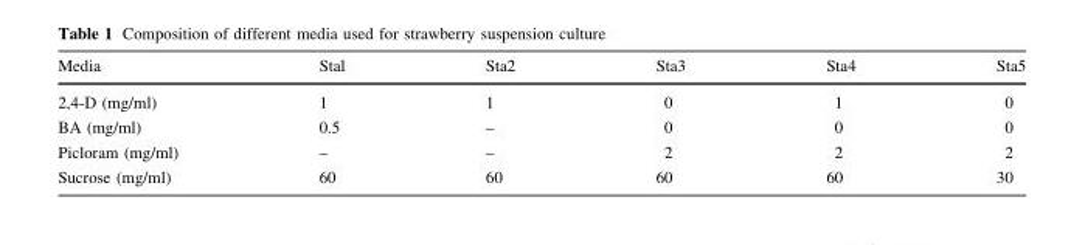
<table><thead><tr><td>Media</td><td>Stal</td><td>Sta2</td><td>Sta3</td><td>Sta4</td><td>Sta5</td></tr></thead><tbody><tr><td>2,4-D (mg/ml)</td><td>1</td><td>1</td><td>0</td><td>1</td><td>0</td></tr><tr><td>BA (mg/ml)</td><td>0.5</td><td>–</td><td>0</td><td>0</td><td>0</td></tr><tr><td>Picloram (mg/ml)</td><td>–</td><td>–</td><td>2</td><td>2</td><td>2</td></tr><tr><td>Sucrose (mg/ml)</td><td>60</td><td>60</td><td>60</td><td>60</td><td>30</td></tr></tbody></table>